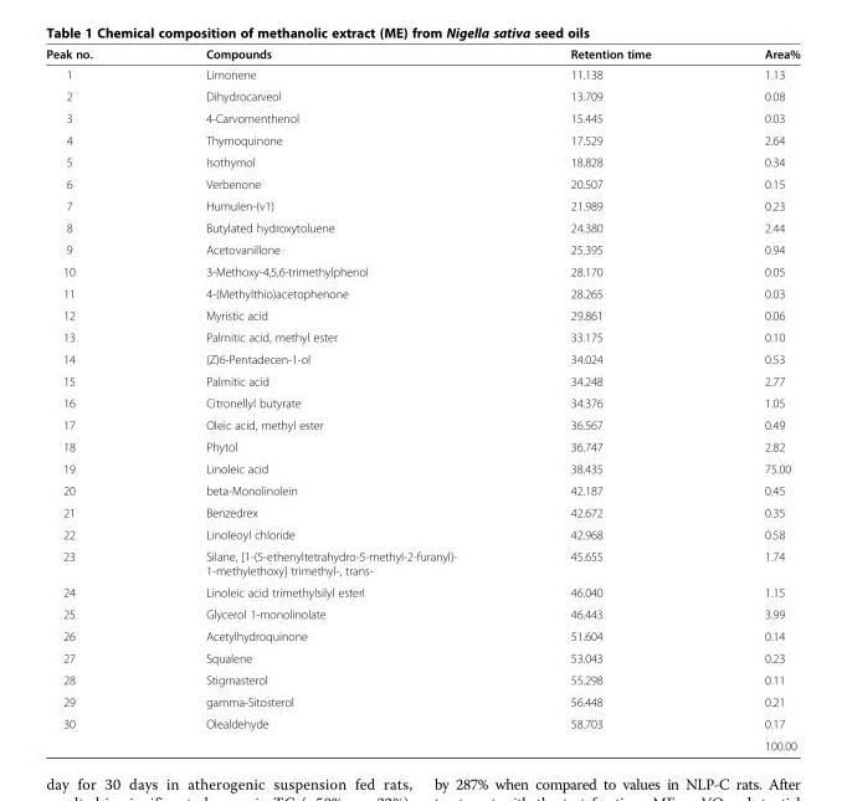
<table><thead><tr><td>Peak no.</td><td>Compounds</td><td>Retention time</td><td>Area%</td></tr></thead><tbody><tr><td>1</td><td>Limonene</td><td>11.138</td><td>1.13</td></tr><tr><td>2</td><td>Dihydrocarveol</td><td>13.709</td><td>0.08</td></tr><tr><td>3</td><td>4-Carvomenthenol</td><td>15.445</td><td>0.03</td></tr><tr><td>4</td><td>Thymoquinone</td><td>17.529</td><td>2.64</td></tr><tr><td>5</td><td>Isothymol</td><td>18.828</td><td>0.34</td></tr><tr><td>6</td><td>Verbenone</td><td>20.507</td><td>0.15</td></tr><tr><td>7</td><td>Humulen-(v1)</td><td>21.989</td><td>0.23</td></tr><tr><td>8</td><td>Butylated hydroxytoluene</td><td>24.380</td><td>2.44</td></tr><tr><td>9</td><td>Acetovanillone</td><td>25.395</td><td>0.94</td></tr><tr><td>10</td><td>3-Methoxy-4,5,6-trimethylphenol</td><td>28.170</td><td>0.05</td></tr><tr><td>11</td><td>4-(Methylthio)acetophenone</td><td>28.265</td><td>0.03</td></tr><tr><td>12</td><td>Myristic acid</td><td>29.861</td><td>0.06</td></tr><tr><td>13</td><td>Palmitic acid, methyl ester</td><td>33.175</td><td>0.10</td></tr><tr><td>14</td><td>(Z)6-Pentadecen-1-ol</td><td>34.024</td><td>0.53</td></tr><tr><td>15</td><td>Palmitic acid</td><td>34.248</td><td>2.77</td></tr><tr><td>16</td><td>Citronellyl butyrate</td><td>34.376</td><td>1.05</td></tr><tr><td>17</td><td>Oleic acid, methyl ester</td><td>36.567</td><td>0.49</td></tr><tr><td>18</td><td>Phytol</td><td>36.747</td><td>2.82</td></tr><tr><td>19</td><td>Linoleic acid</td><td>38.435</td><td>75.00</td></tr><tr><td>20</td><td>beta-Monolinolein</td><td>42.187</td><td>0.45</td></tr><tr><td>21</td><td>Benzedrex</td><td>42.672</td><td>0.35</td></tr><tr><td>22</td><td>Linoleoyl chloride</td><td>42.968</td><td>0.58</td></tr><tr><td>23</td><td>Silane, [1-(5-ethenyltetrahydro-5-methyl-2-furanyl)- 1-methylethoxy] trimethyl-, trans-</td><td>45.655</td><td>1.74</td></tr><tr><td>24</td><td>Linoleic acid trimethylsilyl esterI</td><td>46.040</td><td>1.15</td></tr><tr><td>25</td><td>Glycerol 1-monolinolate</td><td>46.443</td><td>3.99</td></tr><tr><td>26</td><td>Acetylhydroquinone</td><td>51.604</td><td>0.14</td></tr><tr><td>27</td><td>Squalene</td><td>53.043</td><td>0.23</td></tr><tr><td>28</td><td>Stigmasterol</td><td>55.298</td><td>0.11</td></tr><tr><td>29</td><td>gamma-Sitosterol</td><td>56.448</td><td>0.21</td></tr><tr><td rowspan="2">30</td><td>Olealdehyde</td><td>58.703</td><td>0.17</td></tr><tr><td></td><td></td><td>100.00</td></tr></tbody></table>